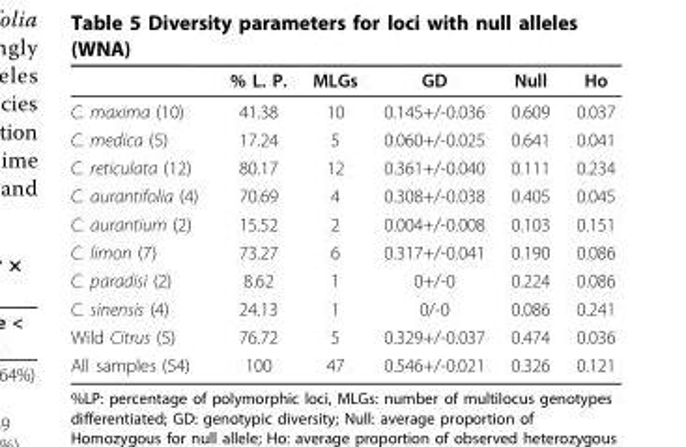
<table><thead><tr><td></td><td>% L. P.</td><td>MLGs</td><td>GD</td><td>Null</td><td>Ho</td></tr></thead><tbody><tr><td>C. maxima (10)</td><td>41.38</td><td>10</td><td>0.145+/-0.036</td><td>0.609</td><td>0.037</td></tr><tr><td>C. medica (5)</td><td>17.24</td><td>5</td><td>0.060+/-0.025</td><td>0.641</td><td>0.041</td></tr><tr><td>C. reticulata (12)</td><td>80.17</td><td>12</td><td>0.361+/-0.040</td><td>0.111</td><td>0.234</td></tr><tr><td>C. aurantifolia (4)</td><td>70.69</td><td>4</td><td>0.308+/-0.038</td><td>0.405</td><td>0.045</td></tr><tr><td>C. aurantium (2)</td><td>15.52</td><td>2</td><td>0.004+/-0.008</td><td>0.103</td><td>0.151</td></tr><tr><td>C. limon (7)</td><td>73.27</td><td>6</td><td>0.317+/-0.041</td><td>0.190</td><td>0.086</td></tr><tr><td>C. paradisi (2)</td><td>8.62</td><td>1</td><td>0+/-0</td><td>0.224</td><td>0.086</td></tr><tr><td>C. sinensis (4)</td><td>24.13</td><td>1</td><td>0/-0</td><td>0.086</td><td>0.241</td></tr><tr><td>Wild Citrus (5)</td><td>76.72</td><td>5</td><td>0.329+/-0.037</td><td>0.474</td><td>0.036</td></tr><tr><td>All samples (54)</td><td>100</td><td>47</td><td>0.546+/-0.021</td><td>0.326</td><td>0.121</td></tr></tbody></table>